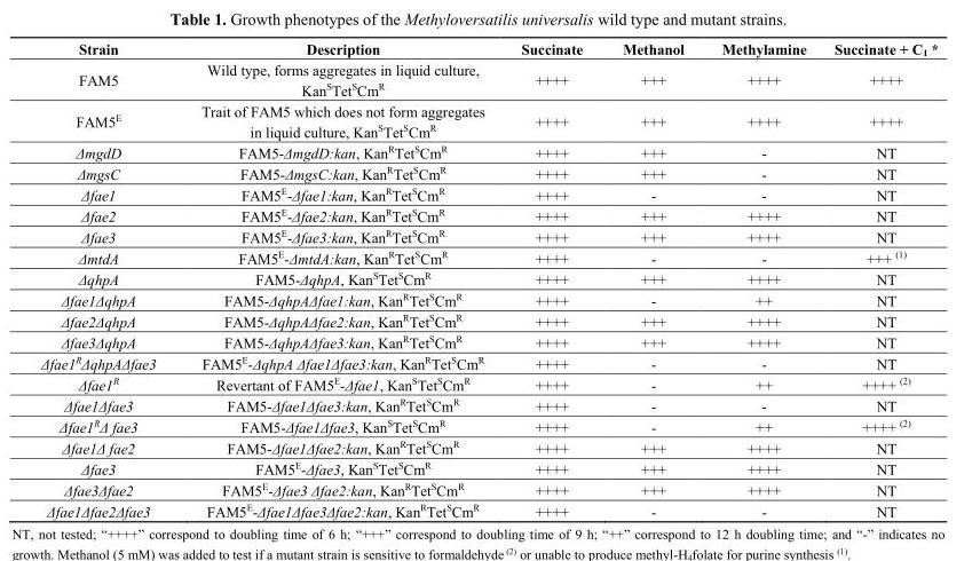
<table><thead><tr><td>Strain</td><td>Description</td><td>Succinate</td><td>Methanol</td><td>Methylamine</td><td>Succinate + C<sub>1</sub> *</td></tr></thead><tbody><tr><td>FAM5</td><td>Wild type, forms aggregates in liquid culture, Kan<sup>S</sup>Tet<sup>S</sup>Cm<sup>R</sup></td><td>++++</td><td>+++</td><td>++++</td><td>++++</td></tr><tr><td>FAM5<sup>E</sup></td><td>Trait of FAM5 which does not form aggregates in liquid culture, Kan<sup>S</sup>Tet<sup>S</sup>Cm<sup>R</sup></td><td>++++</td><td>+++</td><td>++++</td><td>++++</td></tr><tr><td>ΔmgdD</td><td>FAM5-ΔmgdD:kan, Kan<sup>R</sup>Tet<sup>S</sup>Cm<sup>R</sup></td><td>++++</td><td>+++</td><td>-</td><td>NT</td></tr><tr><td>ΔmgsC</td><td>FAM5-ΔmgsC:kan, Kan<sup>R</sup>Tet<sup>S</sup>Cm<sup>R</sup></td><td>++++</td><td>+++</td><td>-</td><td>NT</td></tr><tr><td>Δfae1</td><td>FAM5<sup>E</sup>-Δfae1:kan, Kan<sup>R</sup>Tet<sup>S</sup>Cm<sup>R</sup></td><td>++++</td><td>-</td><td>-</td><td>NT</td></tr><tr><td>Δfae2</td><td>FAM5<sup>E</sup>-Δfae2:kan, Kan<sup>R</sup>Tet<sup>S</sup>Cm<sup>R</sup></td><td>++++</td><td>+++</td><td>++++</td><td>NT</td></tr><tr><td>Δfae3</td><td>FAM5<sup>E</sup>-Δfae3:kan, Kan<sup>R</sup>Tet<sup>S</sup>Cm<sup>R</sup></td><td>++++</td><td>+++</td><td>++++</td><td>NT</td></tr><tr><td>ΔmtdA</td><td>FAM5<sup>E</sup>-ΔmtdA:kan, Kan<sup>R</sup>Tet<sup>S</sup>Cm<sup>R</sup></td><td>++++</td><td>-</td><td>-</td><td>+++ <sup>(1)</sup></td></tr><tr><td>ΔqhpA</td><td>FAM5-ΔqhpA, Kan<sup>S</sup>Tet<sup>S</sup>Cm<sup>R</sup></td><td>++++</td><td>+++</td><td>++++</td><td>NT</td></tr><tr><td>Δfae1ΔqhpA</td><td>FAM5-ΔqhpAΔfae1:kan, Kan<sup>R</sup>Tet<sup>S</sup>Cm<sup>R</sup></td><td>++++</td><td>-</td><td>++</td><td>NT</td></tr><tr><td>Δfae2ΔqhpA</td><td>FAM5-ΔqhpAΔfae2:kan, Kan<sup>R</sup>Tet<sup>S</sup>Cm<sup>R</sup></td><td>++++</td><td>+++</td><td>++++</td><td>NT</td></tr><tr><td>Δfae3ΔqhpA</td><td>FAM5-ΔqhpAΔfae3:kan, Kan<sup>R</sup>Tet<sup>S</sup>Cm<sup>R</sup></td><td>++++</td><td>+++</td><td>++++</td><td>NT</td></tr><tr><td>Δfae1<sup>R</sup>ΔqhpAΔfae3</td><td>FAM5<sup>E</sup>-ΔqhpA Δfae1Δfae3:kan, Kan<sup>R</sup>Tet<sup>S</sup>Cm<sup>R</sup></td><td>++++</td><td>-</td><td>-</td><td>NT</td></tr><tr><td>Δfae1<sup>R</sup></td><td>Revertant of FAM5<sup>E</sup>-Δfae1, Kan<sup>S</sup>Tet<sup>S</sup>Cm<sup>R</sup></td><td>++++</td><td>-</td><td>++</td><td>++++ <sup>(2)</sup></td></tr><tr><td>Δfae1Δfae3</td><td>FAM5-Δfae1Δfae3:kan, Kan<sup>R</sup>Tet<sup>S</sup>Cm<sup>R</sup></td><td>++++</td><td>-</td><td>-</td><td>NT</td></tr><tr><td>Δfae1<sup>R</sup>Δ fae3</td><td>FAM5-Δfae1Δfae3, Kan<sup>S</sup>Tet<sup>S</sup>Cm<sup>R</sup></td><td>++++</td><td>-</td><td>++</td><td>++++ <sup>(2)</sup></td></tr><tr><td>Δfae1Δ fae2</td><td>FAM5-Δfae1Δfae2:kan, Kan<sup>R</sup>Tet<sup>S</sup>Cm<sup>R</sup></td><td>++++</td><td>+++</td><td>++++</td><td>NT</td></tr><tr><td>Δfae3</td><td>FAM5<sup>E</sup>-Δfae3, Kan<sup>S</sup>Tet<sup>S</sup>Cm<sup>R</sup></td><td>++++</td><td>+++</td><td>++++</td><td>NT</td></tr><tr><td>Δfae3Δfae2</td><td>FAM5<sup>E</sup>-Δfae3 Δfae2:kan, Kan<sup>R</sup>Tet<sup>S</sup>Cm<sup>R</sup></td><td>++++</td><td>+++</td><td>++++</td><td>NT</td></tr><tr><td>Δfae1Δfae2Δfae3</td><td>FAM5<sup>E</sup>-Δfae1Δfae3Δfae2:kan, Kan<sup>R</sup>Tet<sup>S</sup>Cm<sup>R</sup></td><td>++++</td><td>-</td><td>-</td><td>NT</td></tr></tbody></table>